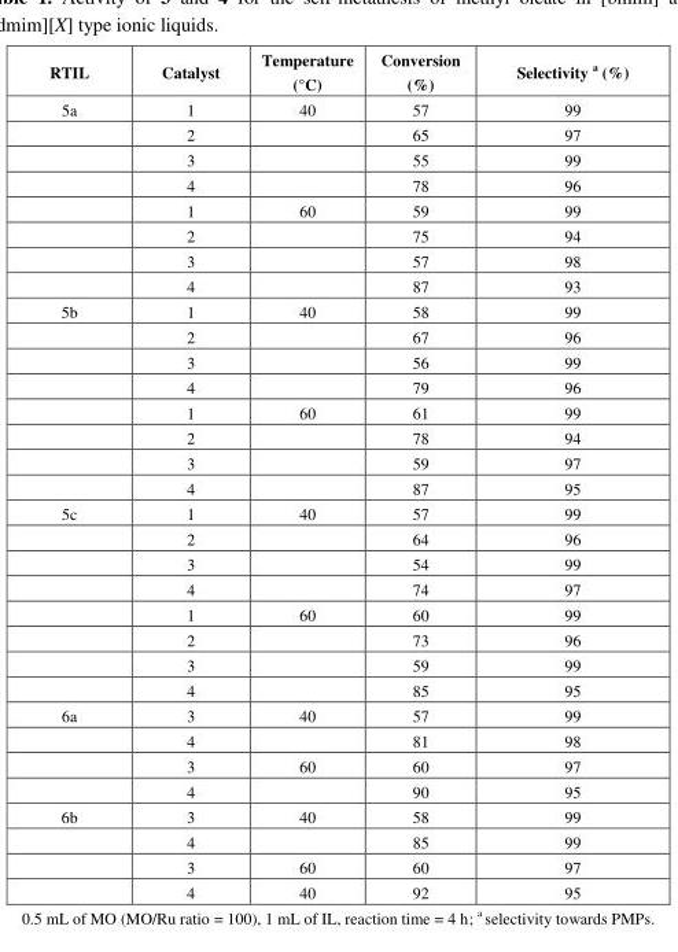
<table><thead><tr><td>RTIL</td><td>Catalyst</td><td>Temperature (°C)</td><td>Conversion (%)</td><td>Selectivity a (%)</td></tr></thead><tbody><tr><td rowspan="8">5a</td><td>1</td><td>40</td><td>57</td><td>99</td></tr><tr><td>2</td><td></td><td>65</td><td>97</td></tr><tr><td>3</td><td></td><td>55</td><td>99</td></tr><tr><td>4</td><td></td><td>78</td><td>96</td></tr><tr><td>1</td><td>60</td><td>59</td><td>99</td></tr><tr><td>2</td><td></td><td>75</td><td>94</td></tr><tr><td>3</td><td></td><td>57</td><td>98</td></tr><tr><td>4</td><td></td><td>87</td><td>93</td></tr><tr><td rowspan="8">5b</td><td>1</td><td>40</td><td>58</td><td>99</td></tr><tr><td>2</td><td></td><td>67</td><td>96</td></tr><tr><td>3</td><td></td><td>56</td><td>99</td></tr><tr><td>4</td><td></td><td>79</td><td>96</td></tr><tr><td>1</td><td>60</td><td>61</td><td>99</td></tr><tr><td>2</td><td></td><td>78</td><td>94</td></tr><tr><td>3</td><td></td><td>59</td><td>97</td></tr><tr><td>4</td><td></td><td>87</td><td>95</td></tr><tr><td rowspan="8">5c</td><td>1</td><td>40</td><td>57</td><td>99</td></tr><tr><td>2</td><td></td><td>64</td><td>96</td></tr><tr><td>3</td><td></td><td>54</td><td>99</td></tr><tr><td>4</td><td></td><td>74</td><td>97</td></tr><tr><td>1</td><td>60</td><td>60</td><td>99</td></tr><tr><td>2</td><td></td><td>73</td><td>96</td></tr><tr><td>3</td><td></td><td>59</td><td>99</td></tr><tr><td>4</td><td></td><td>85</td><td>95</td></tr><tr><td rowspan="4">6a</td><td>3</td><td>40</td><td>57</td><td>99</td></tr><tr><td>4</td><td></td><td>81</td><td>98</td></tr><tr><td>3</td><td>60</td><td>60</td><td>97</td></tr><tr><td>4</td><td></td><td>90</td><td>95</td></tr><tr><td rowspan="4">6b</td><td>3</td><td>40</td><td>58</td><td>99</td></tr><tr><td>4</td><td></td><td>85</td><td>99</td></tr><tr><td>3</td><td>60</td><td>60</td><td>97</td></tr><tr><td>4</td><td>40</td><td>92</td><td>95</td></tr></tbody></table>